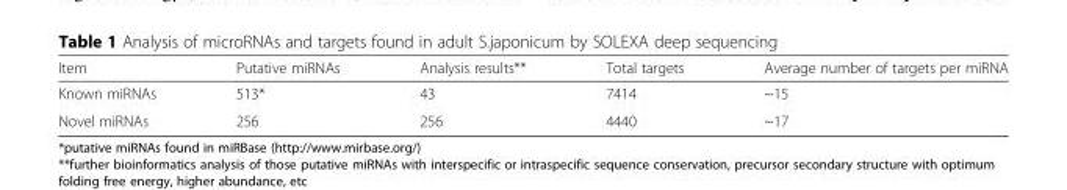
<table><thead><tr><td>Item</td><td>Putative miRNAs</td><td>Analysis results**</td><td>Total targets</td><td>Average number of targets per miRNA</td></tr></thead><tbody><tr><td>Known miRNAs</td><td>513*</td><td>43</td><td>7414</td><td>~15</td></tr><tr><td>Novel miRNAs</td><td>256</td><td>256</td><td>4440</td><td>~17</td></tr></tbody></table>